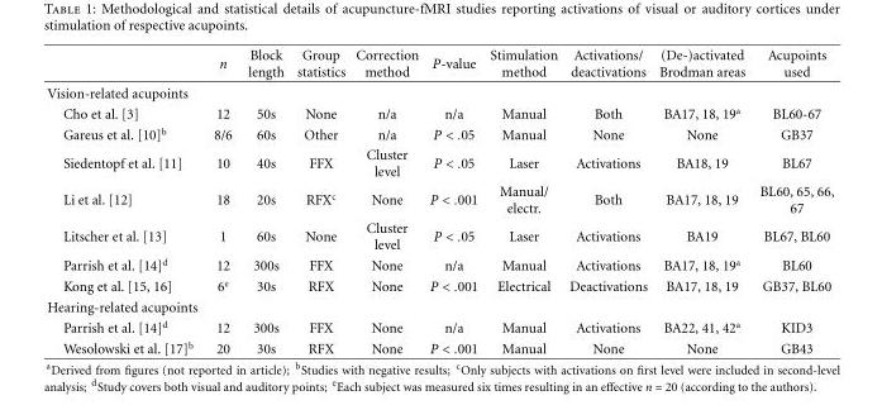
<table><thead><tr><td></td><td>n</td><td>Block length</td><td>Group statistics</td><td>Correction method</td><td>P-value</td><td>Stimulation method</td><td>Activations/ deactivations</td><td>(De-)activated Brodman areas</td><td>Acupoints used</td></tr></thead><tbody><tr><td colspan="10">Vision-related acupoints</td></tr><tr><td>Cho et al. [3]</td><td>12</td><td>50s</td><td>None</td><td>n/a</td><td>n/a</td><td>Manual</td><td>Both</td><td>BA17, 18, 19<sup>a</sup></td><td>BL60-67</td></tr><tr><td>Gareus et al. [10]<sup>b</sup></td><td>8/6</td><td>60s</td><td>Other</td><td>n/a</td><td>P &lt; .05</td><td>Manual</td><td>None</td><td>None</td><td>GB37</td></tr><tr><td>Siedentopf et al. [11]</td><td>10</td><td>40s</td><td>FFX</td><td>Cluster level</td><td>P &lt; .05</td><td>Laser</td><td>Activations</td><td>BA18, 19</td><td>BL67</td></tr><tr><td>Li et al. [12]</td><td>18</td><td>20s</td><td>RFX<sup>c</sup></td><td>None</td><td>P &lt; .001</td><td>Manual/ electr.</td><td>Both</td><td>BA17, 18, 19</td><td>BL60, 65, 66, 67</td></tr><tr><td>Litscher et al. [13]</td><td>1</td><td>60s</td><td>None</td><td>Cluster level</td><td>P &lt; .05</td><td>Laser</td><td>Activations</td><td>BA19</td><td>BL67, BL60</td></tr><tr><td>Parrish et al. [14]<sup>d</sup></td><td>12</td><td>300s</td><td>FFX</td><td>None</td><td>n/a</td><td>Manual</td><td>Activations</td><td>BA17, 18, 19<sup>a</sup></td><td>BL60</td></tr><tr><td>Kong et al. [15, 16]</td><td>6<sup>e</sup></td><td>30s</td><td>RFX</td><td>None</td><td>P &lt; .001</td><td>Electrical</td><td>Deactivations</td><td>BA17, 18, 19</td><td>GB37, BL60</td></tr><tr><td colspan="10">Hearing-related acupoints</td></tr><tr><td>Parrish et al. [14]<sup>d</sup></td><td>12</td><td>300s</td><td>FFX</td><td>None</td><td>n/a</td><td>Manual</td><td>Activations</td><td>BA22, 41, 42<sup>a</sup></td><td>KID3</td></tr><tr><td>Wesolowski et al. [17]<sup>b</sup></td><td>20</td><td>30s</td><td>RFX</td><td>None</td><td>P &lt; .001</td><td>Manual</td><td>None</td><td>None</td><td>GB43</td></tr></tbody></table>